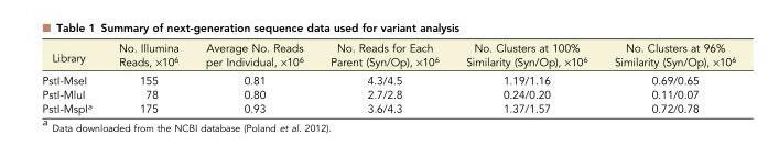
<table><thead><tr><td>Library</td><td>No. Illumina Reads, ×10<sup>6</sup></td><td>Average No. Reads per Individual, ×10<sup>6</sup></td><td>No. Reads for Each Parent (Syn/Op), ×10<sup>6</sup></td><td>No. Clusters at 100% Similarity (Syn/Op), ×10<sup>6</sup></td><td>No. Clusters at 96% Similarity (Syn/Op), ×10<sup>6</sup></td></tr></thead><tbody><tr><td>PstI-MseI</td><td>155</td><td>0.81</td><td>4.3/4.5</td><td>1.19/1.16</td><td>0.69/0.65</td></tr><tr><td>PstI-MluI</td><td>78</td><td>0.80</td><td>2.7/2.8</td><td>0.24/0.20</td><td>0.11/0.07</td></tr><tr><td>PstI-MspI<sup>a</sup></td><td>175</td><td>0.93</td><td>3.6/4.3</td><td>1.37/1.57</td><td>0.72/0.78</td></tr></tbody></table>